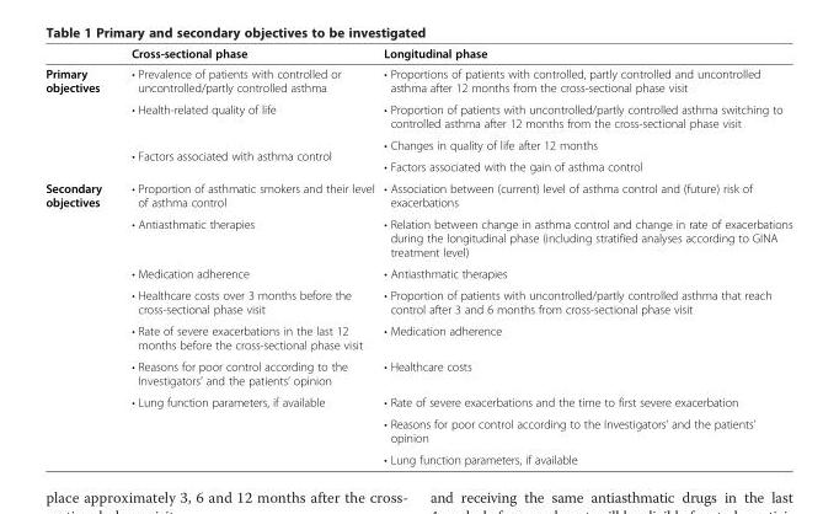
<table><thead><tr><td></td><td>Cross-sectional phase</td><td>Longitudinal phase</td></tr></thead><tbody><tr><td rowspan="4">Primary objectives</td><td>• Prevalence of patients with controlled or uncontrolled/partly controlled asthma</td><td>• Proportions of patients with controlled, partly controlled and uncontrolled asthma after 12 months from the cross-sectional phase visit</td></tr><tr><td>• Health-related quality of life</td><td>• Proportion of patients with uncontrolled/partly controlled asthma switching to controlled asthma after 12 months from the cross-sectional phase visit</td></tr><tr><td rowspan="2">• Factors associated with asthma control</td><td>• Changes in quality of life after 12 months</td></tr><tr><td>• Factors associated with the gain of asthma control</td></tr><tr><td rowspan="9">Secondary objectives</td><td>• Proportion of asthmatic smokers and their level of asthma control</td><td>• Association between (current) level of asthma control and (future) risk of exacerbations</td></tr><tr><td>• Antiasthmatic therapies</td><td>• Relation between change in asthma control and change in rate of exacerbations during the longitudinal phase (including stratified analyses according to GINA treatment level)</td></tr><tr><td>• Medication adherence</td><td>• Antiasthmatic therapies</td></tr><tr><td>• Healthcare costs over 3 months before the cross-sectional phase visit</td><td>• Proportion of patients with uncontrolled/partly controlled asthma that reach control after 3 and 6 months from cross-sectional phase visit</td></tr><tr><td>• Rate of severe exacerbations in the last 12 months before the cross-sectional phase visit</td><td>• Medication adherence</td></tr><tr><td>• Reasons for poor control according to the Investigators’ and the patients’ opinion</td><td>• Healthcare costs</td></tr><tr><td rowspan="2">• Lung function parameters, if available</td><td>• Rate of severe exacerbations and the time to first severe exacerbation</td></tr><tr><td>• Reasons for poor control according to the Investigators’ and the patients’ opinion</td></tr><tr><td></td><td>• Lung function parameters, if available</td></tr></tbody></table>